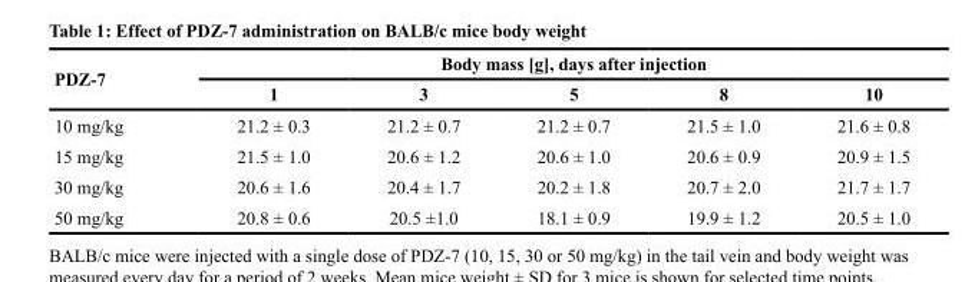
<table><thead><tr><td rowspan="2">PDZ-7</td><td colspan="5">Body mass [g], days after injection</td></tr><tr><td>1</td><td>3</td><td>5</td><td>8</td><td>10</td></tr></thead><tbody><tr><td>10 mg/kg</td><td>21.2 ± 0.3</td><td>21.2 ± 0.7</td><td>21.2 ± 0.7</td><td>21.5 ± 1.0</td><td>21.6 ± 0.8</td></tr><tr><td>15 mg/kg</td><td>21.5 ± 1.0</td><td>20.6 ± 1.2</td><td>20.6 ± 1.0</td><td>20.6 ± 0.9</td><td>20.9 ± 1.5</td></tr><tr><td>30 mg/kg</td><td>20.6 ± 1.6</td><td>20.4 ± 1.7</td><td>20.2 ± 1.8</td><td>20.7 ± 2.0</td><td>21.7 ± 1.7</td></tr><tr><td>50 mg/kg</td><td>20.8 ± 0.6</td><td>20.5 ±1.0</td><td>18.1 ± 0.9</td><td>19.9 ± 1.2</td><td>20.5 ± 1.0</td></tr></tbody></table>